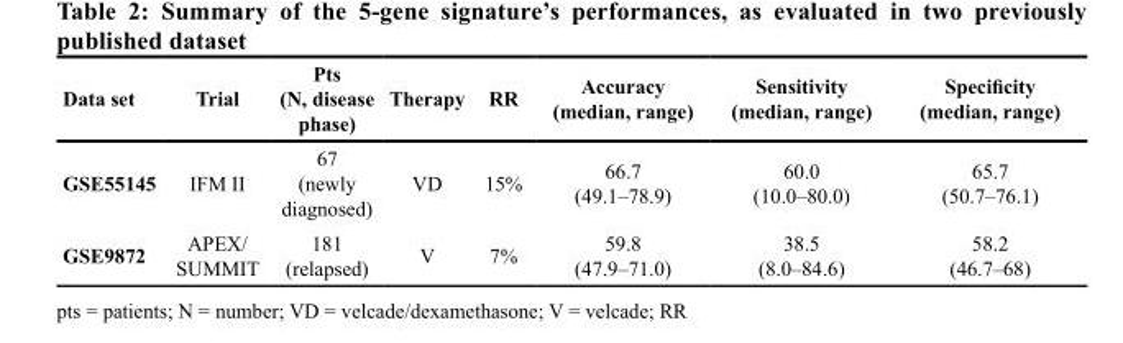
<table><thead><tr><td>Data set</td><td>Trial</td><td>Pts (N, disease phase)</td><td>Therapy</td><td>RR</td><td>Accuracy (median, range)</td><td>Sensitivity (median, range)</td><td>Specificity (median, range)</td></tr></thead><tbody><tr><td>GSE55145</td><td>IFM II</td><td>67 (newly diagnosed)</td><td>VD</td><td>15%</td><td>66.7 (49.1–78.9)</td><td>60.0 (10.0–80.0)</td><td>65.7 (50.7–76.1)</td></tr><tr><td>GSE9872</td><td>APEX/ SUMMIT</td><td>181 (relapsed)</td><td>V</td><td>7%</td><td>59.8 (47.9–71.0)</td><td>38.5 (8.0–84.6)</td><td>58.2 (46.7–68)</td></tr></tbody></table>